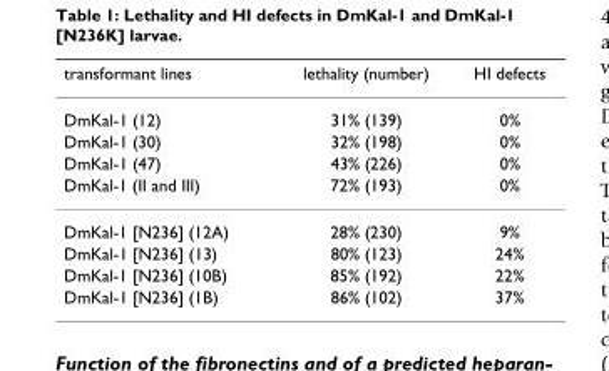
<table><thead><tr><td>transformant lines</td><td>lethality (number)</td><td>HI defects</td></tr></thead><tbody><tr><td>DmKal-1 (12)</td><td>31% (139)</td><td>0%</td></tr><tr><td>DmKal-1 (30)</td><td>32% (198)</td><td>0%</td></tr><tr><td>DmKal-1 (47)</td><td>43% (226)</td><td>0%</td></tr><tr><td>DmKal-1 (II and III)</td><td>72% (193)</td><td>0%</td></tr><tr><td>DmKal-1 [N236] (12A)</td><td>28% (230)</td><td>9%</td></tr><tr><td>DmKal-1 [N236] (13)</td><td>80% (123)</td><td>24%</td></tr><tr><td>DmKal-1 [N236] (10B)</td><td>85% (192)</td><td>22%</td></tr><tr><td>DmKal-1 [N236] (1B)</td><td>86% (102)</td><td>37%</td></tr></tbody></table>